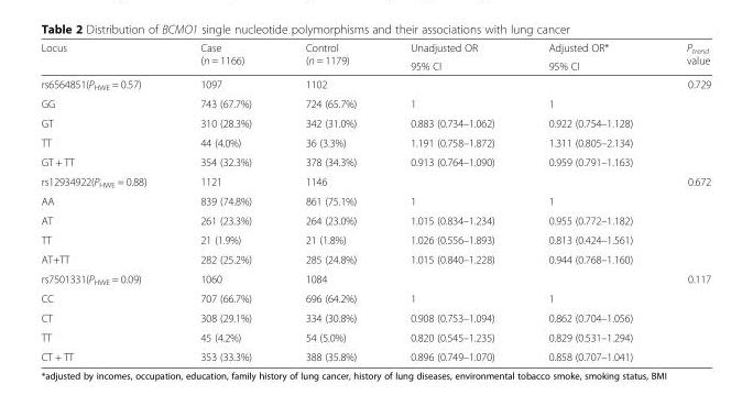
<table><thead><tr><td rowspan="2">Locus</td><td rowspan="2">Case (n = 1166)</td><td rowspan="2">Control (n = 1179)</td><td rowspan="2">Unadjusted OR 95% CI</td><td rowspan="2">Adjusted OR* 95% CI</td><td rowspan="2">P<sub>trend</sub> value</td></tr><tr></tr></thead><tbody><tr><td>rs6564851(P<sub>HWE</sub> = 0.57)</td><td>1097</td><td>1102</td><td></td><td></td><td>0.729</td></tr><tr><td>GG</td><td>743 (67.7%)</td><td>724 (65.7%)</td><td>1</td><td>1</td><td></td></tr><tr><td>GT</td><td>310 (28.3%)</td><td>342 (31.0%)</td><td>0.883 (0.734–1.062)</td><td>0.922 (0.754–1.128)</td><td></td></tr><tr><td>TT</td><td>44 (4.0%)</td><td>36 (3.3%)</td><td>1.191 (0.758–1.872)</td><td>1.311 (0.805–2.134)</td><td></td></tr><tr><td>GT + TT</td><td>354 (32.3%)</td><td>378 (34.3%)</td><td>0.913 (0.764–1.090)</td><td>0.959 (0.791–1.163)</td><td></td></tr><tr><td>rs12934922(P<sub>HWE</sub> = 0.88)</td><td>1121</td><td>1146</td><td></td><td></td><td>0.672</td></tr><tr><td>AA</td><td>839 (74.8%)</td><td>861 (75.1%)</td><td>1</td><td>1</td><td></td></tr><tr><td>AT</td><td>261 (23.3%)</td><td>264 (23.0%)</td><td>1.015 (0.834–1.234)</td><td>0.955 (0.772–1.182)</td><td></td></tr><tr><td>TT</td><td>21 (1.9%)</td><td>21 (1.8%)</td><td>1.026 (0.556–1.893)</td><td>0.813 (0.424–1.561)</td><td></td></tr><tr><td>AT+TT</td><td>282 (25.2%)</td><td>285 (24.8%)</td><td>1.015 (0.840–1.228)</td><td>0.944 (0.768–1.160)</td><td></td></tr><tr><td>rs7501331(P<sub>HWE</sub> = 0.09)</td><td>1060</td><td>1084</td><td></td><td></td><td>0.117</td></tr><tr><td>CC</td><td>707 (66.7%)</td><td>696 (64.2%)</td><td>1</td><td>1</td><td></td></tr><tr><td>CT</td><td>308 (29.1%)</td><td>334 (30.8%)</td><td>0.908 (0.753–1.094)</td><td>0.862 (0.704–1.056)</td><td></td></tr><tr><td>TT</td><td>45 (4.2%)</td><td>54 (5.0%)</td><td>0.820 (0.545–1.235)</td><td>0.829 (0.531–1.294)</td><td></td></tr><tr><td>CT + TT</td><td>353 (33.3%)</td><td>388 (35.8%)</td><td>0.896 (0.749–1.070)</td><td>0.858 (0.707–1.041)</td><td></td></tr></tbody></table>